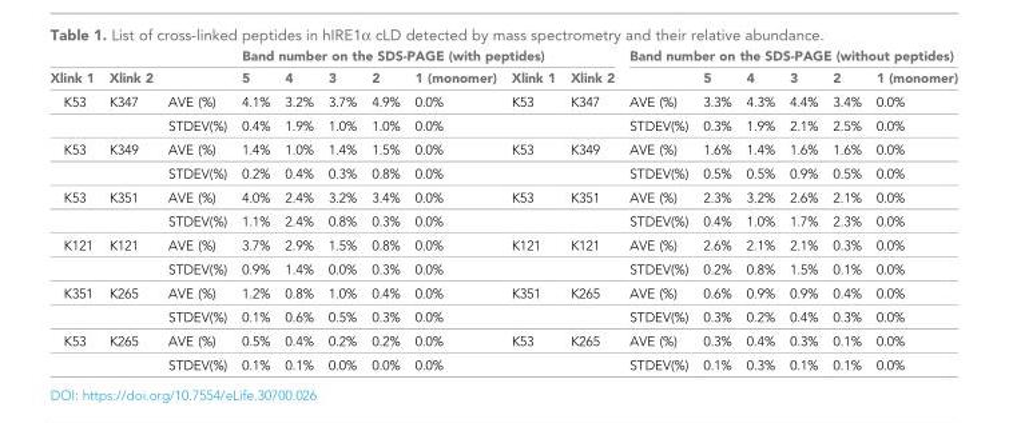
<table><thead><tr><td rowspan="2">Xlink 1</td><td rowspan="2">Xlink 2</td><td rowspan="2"></td><td colspan="7">Band number on the SDS-PAGE (with peptides)</td><td colspan="6">Band number on the SDS-PAGE (without peptides)</td></tr><tr><td>5</td><td>4</td><td>3</td><td>2</td><td>1 (monomer)</td><td>Xlink 1</td><td>Xlink 2</td><td></td><td>5</td><td>4</td><td>3</td><td>2</td><td>1 (monomer)</td></tr></thead><tbody><tr><td rowspan="2">K53</td><td>K347</td><td>AVE (%)</td><td>4.1%</td><td>3.2%</td><td>3.7%</td><td>4.9%</td><td>0.0%</td><td>K53</td><td>K347</td><td>AVE (%)</td><td>3.3%</td><td>4.3%</td><td>4.4%</td><td>3.4%</td><td>0.0%</td></tr><tr><td></td><td>STDEV(%)</td><td>0.4%</td><td>1.9%</td><td>1.0%</td><td>1.0%</td><td>0.0%</td><td></td><td></td><td>STDEV(%)</td><td>0.3%</td><td>1.9%</td><td>2.1%</td><td>2.5%</td><td>0.0%</td></tr><tr><td rowspan="2">K53</td><td>K349</td><td>AVE (%)</td><td>1.4%</td><td>1.0%</td><td>1.4%</td><td>1.5%</td><td>0.0%</td><td>K53</td><td>K349</td><td>AVE (%)</td><td>1.6%</td><td>1.4%</td><td>1.6%</td><td>1.6%</td><td>0.0%</td></tr><tr><td></td><td>STDEV(%)</td><td>0.2%</td><td>0.4%</td><td>0.3%</td><td>0.8%</td><td>0.0%</td><td></td><td></td><td>STDEV(%)</td><td>0.5%</td><td>0.5%</td><td>0.9%</td><td>0.5%</td><td>0.0%</td></tr><tr><td rowspan="2">K53</td><td>K351</td><td>AVE (%)</td><td>4.0%</td><td>2.4%</td><td>3.2%</td><td>3.4%</td><td>0.0%</td><td>K53</td><td>K351</td><td>AVE (%)</td><td>2.3%</td><td>3.2%</td><td>2.6%</td><td>2.1%</td><td>0.0%</td></tr><tr><td></td><td>STDEV(%)</td><td>1.1%</td><td>2.4%</td><td>0.8%</td><td>0.3%</td><td>0.0%</td><td></td><td></td><td>STDEV(%)</td><td>0.4%</td><td>1.0%</td><td>1.7%</td><td>2.3%</td><td>0.0%</td></tr><tr><td rowspan="2">K121</td><td>K121</td><td>AVE (%)</td><td>3.7%</td><td>2.9%</td><td>1.5%</td><td>0.8%</td><td>0.0%</td><td>K121</td><td>K121</td><td>AVE (%)</td><td>2.6%</td><td>2.1%</td><td>2.1%</td><td>0.3%</td><td>0.0%</td></tr><tr><td></td><td>STDEV(%)</td><td>0.9%</td><td>1.4%</td><td>0.0%</td><td>0.3%</td><td>0.0%</td><td></td><td></td><td>STDEV(%)</td><td>0.2%</td><td>0.8%</td><td>1.5%</td><td>0.1%</td><td>0.0%</td></tr><tr><td rowspan="2">K351</td><td>K265</td><td>AVE (%)</td><td>1.2%</td><td>0.8%</td><td>1.0%</td><td>0.4%</td><td>0.0%</td><td>K351</td><td>K265</td><td>AVE (%)</td><td>0.6%</td><td>0.9%</td><td>0.9%</td><td>0.4%</td><td>0.0%</td></tr><tr><td></td><td>STDEV(%)</td><td>0.1%</td><td>0.6%</td><td>0.5%</td><td>0.3%</td><td>0.0%</td><td></td><td></td><td>STDEV(%)</td><td>0.3%</td><td>0.2%</td><td>0.4%</td><td>0.3%</td><td>0.0%</td></tr><tr><td rowspan="2">K53</td><td>K265</td><td>AVE (%)</td><td>0.5%</td><td>0.4%</td><td>0.2%</td><td>0.2%</td><td>0.0%</td><td>K53</td><td>K265</td><td>AVE (%)</td><td>0.3%</td><td>0.4%</td><td>0.3%</td><td>0.1%</td><td>0.0%</td></tr><tr><td></td><td>STDEV(%)</td><td>0.1%</td><td>0.1%</td><td>0.0%</td><td>0.0%</td><td>0.0%</td><td></td><td></td><td>STDEV(%)</td><td>0.1%</td><td>0.3%</td><td>0.1%</td><td>0.1%</td><td>0.0%</td></tr></tbody></table>